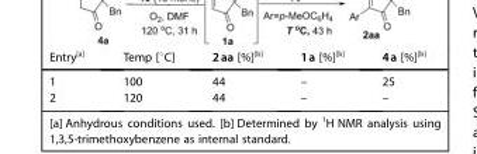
<table><thead><tr><td>Entry<sup>[a]</sup></td><td>Temp [°C]</td><td>2aa [%]<sup>[b]</sup></td><td>1a [%]<sup>[b]</sup></td><td>4a [%]<sup>[b]</sup></td></tr></thead><tbody><tr><td>1</td><td>100</td><td>44</td><td>–</td><td>25</td></tr><tr><td>2</td><td>120</td><td>44</td><td>–</td><td>–</td></tr></tbody></table>